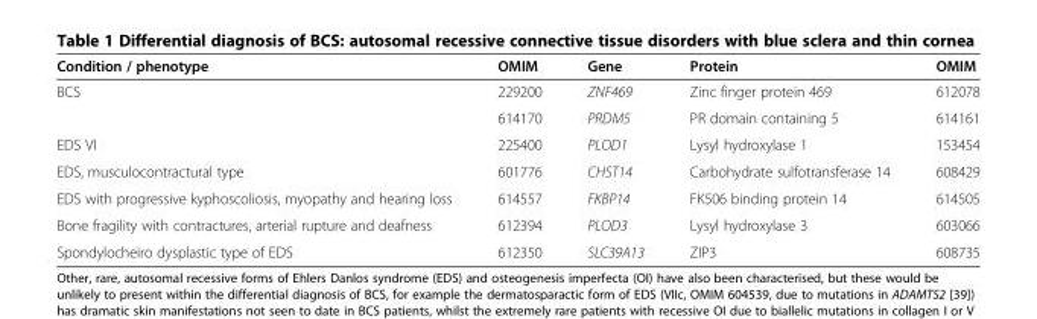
<table><thead><tr><td>Condition / phenotype</td><td>OMIM</td><td>Gene</td><td>Protein</td><td>OMIM</td></tr></thead><tbody><tr><td rowspan="2">BCS</td><td>229200</td><td>ZNF469</td><td>Zinc finger protein 469</td><td>612078</td></tr><tr><td>614170</td><td>PRDM5</td><td>PR domain containing 5</td><td>614161</td></tr><tr><td>EDS VI</td><td>225400</td><td>PLOD1</td><td>Lysyl hydroxylase 1</td><td>153454</td></tr><tr><td>EDS, musculocontractural type</td><td>601776</td><td>CHST14</td><td>Carbohydrate sulfotransferase 14</td><td>608429</td></tr><tr><td>EDS with progressive kyphoscoliosis, myopathy and hearing loss</td><td>614557</td><td>FKBP14</td><td>FK506 binding protein 14</td><td>614505</td></tr><tr><td>Bone fragility with contractures, arterial rupture and deafness</td><td>612394</td><td>PLOD3</td><td>Lysyl hydroxylase 3</td><td>603066</td></tr><tr><td>Spondylocheiro dysplastic type of EDS</td><td>612350</td><td>SLC39A13</td><td>ZIP3</td><td>608735</td></tr></tbody></table>